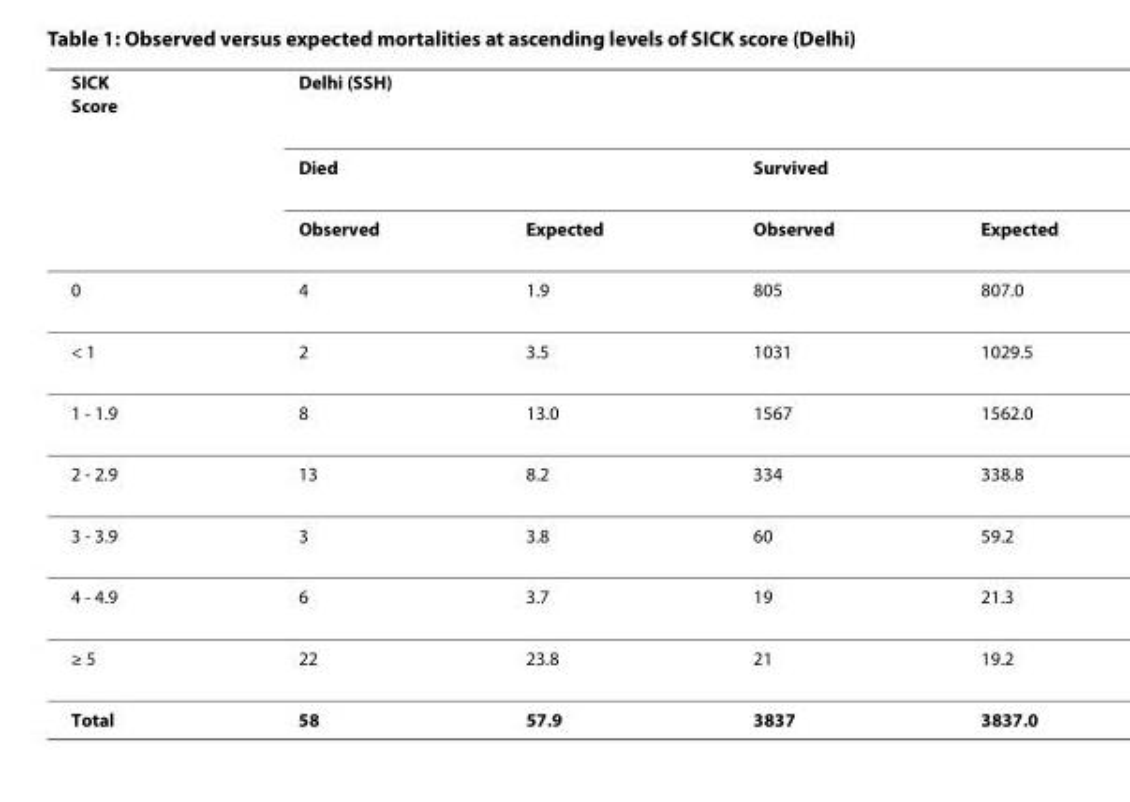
<table><thead><tr><td rowspan="3">SICK Score</td><td colspan="4">Delhi (SSH)</td></tr><tr><td colspan="2">Died</td><td colspan="2">Survived</td></tr><tr><td>Observed</td><td>Expected</td><td>Observed</td><td>Expected</td></tr></thead><tbody><tr><td>0</td><td>4</td><td>1.9</td><td>805</td><td>807.0</td></tr><tr><td>&lt; 1</td><td>2</td><td>3.5</td><td>1031</td><td>1029.5</td></tr><tr><td>1 - 1.9</td><td>8</td><td>13.0</td><td>1567</td><td>1562.0</td></tr><tr><td>2 - 2.9</td><td>13</td><td>8.2</td><td>334</td><td>338.8</td></tr><tr><td>3 - 3.9</td><td>3</td><td>3.8</td><td>60</td><td>59.2</td></tr><tr><td>4 - 4.9</td><td>6</td><td>3.7</td><td>19</td><td>21.3</td></tr><tr><td>≥ 5</td><td>22</td><td>23.8</td><td>21</td><td>19.2</td></tr><tr><td>Total</td><td>58</td><td>57.9</td><td>3837</td><td>3837.0</td></tr></tbody></table>